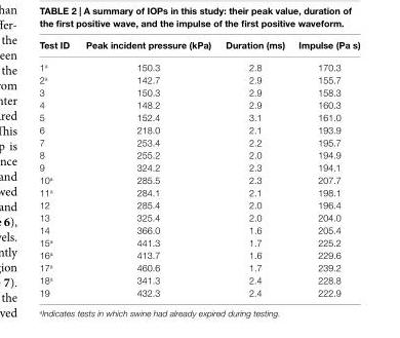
<table><thead><tr><td>Test iD</td><td>Peak incident pressure (kPa)</td><td>Duration (ms)</td><td>impulse (Pa s)</td></tr></thead><tbody><tr><td>1<sup>a</sup></td><td>150.3</td><td>2.8</td><td>170.3</td></tr><tr><td>2<sup>a</sup></td><td>142.7</td><td>2.9</td><td>155.7</td></tr><tr><td>3</td><td>150.3</td><td>2.9</td><td>158.3</td></tr><tr><td>4</td><td>148.2</td><td>2.9</td><td>160.3</td></tr><tr><td>5</td><td>152.4</td><td>3.1</td><td>161.0</td></tr><tr><td>6</td><td>218.0</td><td>2.1</td><td>193.9</td></tr><tr><td>7</td><td>253.4</td><td>2.2</td><td>195.7</td></tr><tr><td>8</td><td>255.2</td><td>2.0</td><td>194.9</td></tr><tr><td>9</td><td>324.2</td><td>2.3</td><td>194.1</td></tr><tr><td>10<sup>a</sup></td><td>285.5</td><td>2.3</td><td>207.7</td></tr><tr><td>11<sup>a</sup></td><td>284.1</td><td>2.1</td><td>198.1</td></tr><tr><td>12</td><td>285.4</td><td>2.0</td><td>196.4</td></tr><tr><td>13</td><td>325.4</td><td>2.0</td><td>204.0</td></tr><tr><td>14</td><td>366.0</td><td>1.6</td><td>205.4</td></tr><tr><td>15<sup>a</sup></td><td>441.3</td><td>1.7</td><td>225.2</td></tr><tr><td>16<sup>a</sup></td><td>413.7</td><td>1.6</td><td>229.6</td></tr><tr><td>17<sup>a</sup></td><td>460.6</td><td>1.7</td><td>239.2</td></tr><tr><td>18<sup>a</sup></td><td>341.3</td><td>2.4</td><td>228.8</td></tr><tr><td>19</td><td>432.3</td><td>2.4</td><td>222.9</td></tr></tbody></table>